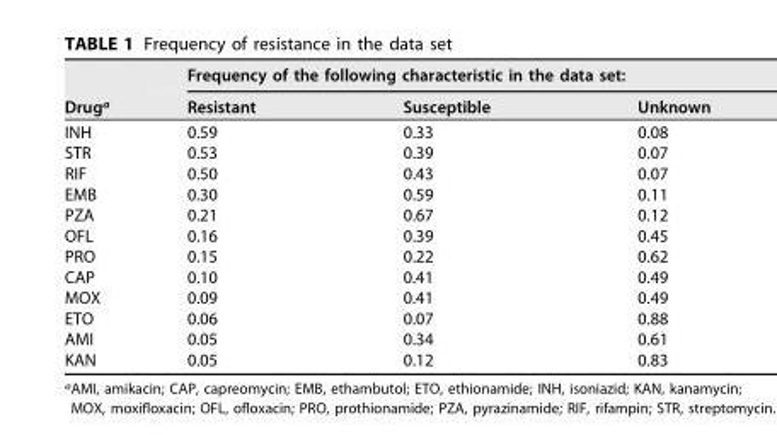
<table><thead><tr><td rowspan="2">Drug<sup>a</sup></td><td colspan="3">Frequency of the following characteristic in the data set:</td></tr><tr><td>Resistant</td><td>Susceptible</td><td>Unknown</td></tr></thead><tbody><tr><td>INH</td><td>0.59</td><td>0.33</td><td>0.08</td></tr><tr><td>STR</td><td>0.53</td><td>0.39</td><td>0.07</td></tr><tr><td>RIF</td><td>0.50</td><td>0.43</td><td>0.07</td></tr><tr><td>EMB</td><td>0.30</td><td>0.59</td><td>0.11</td></tr><tr><td>PZA</td><td>0.21</td><td>0.67</td><td>0.12</td></tr><tr><td>OFL</td><td>0.16</td><td>0.39</td><td>0.45</td></tr><tr><td>PRO</td><td>0.15</td><td>0.22</td><td>0.62</td></tr><tr><td>CAP</td><td>0.10</td><td>0.41</td><td>0.49</td></tr><tr><td>MOX</td><td>0.09</td><td>0.41</td><td>0.49</td></tr><tr><td>ETO</td><td>0.06</td><td>0.07</td><td>0.88</td></tr><tr><td>AMI</td><td>0.05</td><td>0.34</td><td>0.61</td></tr><tr><td>KAN</td><td>0.05</td><td>0.12</td><td>0.83</td></tr></tbody></table>